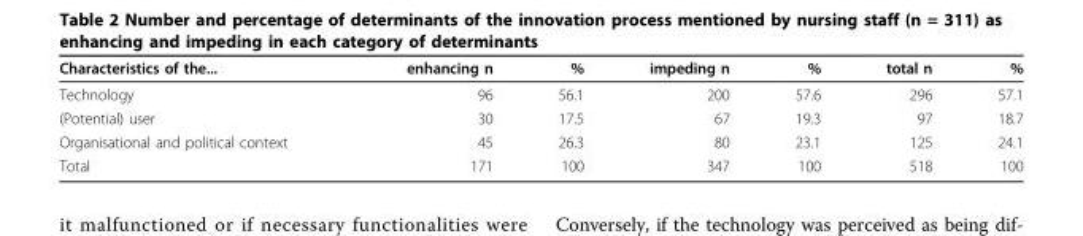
<table><thead><tr><td>Characteristics of the...</td><td>enhancing n</td><td>%</td><td>impeding n</td><td>%</td><td>total n</td><td>%</td></tr></thead><tbody><tr><td>Technology</td><td>96</td><td>56.1</td><td>200</td><td>57.6</td><td>296</td><td>57.1</td></tr><tr><td>(Potential) user</td><td>30</td><td>17.5</td><td>67</td><td>19.3</td><td>97</td><td>18.7</td></tr><tr><td>Organisational and political context</td><td>45</td><td>26.3</td><td>80</td><td>23.1</td><td>125</td><td>24.1</td></tr><tr><td>Total</td><td>171</td><td>100</td><td>347</td><td>100</td><td>518</td><td>100</td></tr></tbody></table>